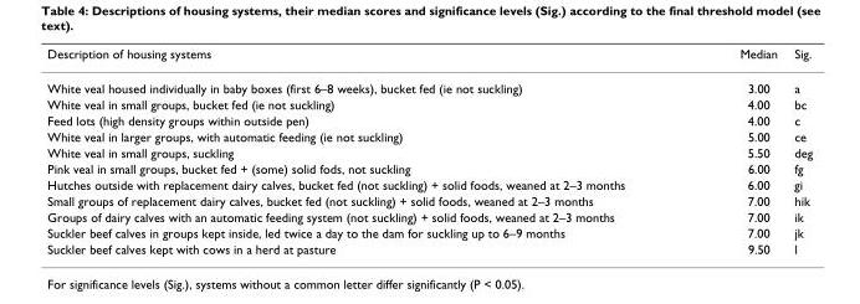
<table><thead><tr><td>Description of housing systems</td><td>Median</td><td>Sig.</td></tr></thead><tbody><tr><td>White veal housed individually in baby boxes (first 6–8 weeks), bucket fed (ie not suckling)</td><td>3.00</td><td>a</td></tr><tr><td>White veal in small groups, bucket fed (ie not suckling)</td><td>4.00</td><td>bc</td></tr><tr><td>Feed lots (high density groups within outside pen)</td><td>4.00</td><td>c</td></tr><tr><td>White veal in larger groups, with automatic feeding (ie not suckling)</td><td>5.00</td><td>ce</td></tr><tr><td>White veal in small groups, suckling</td><td>5.50</td><td>deg</td></tr><tr><td>Pink veal in small groups, bucket fed + (some) solid fods, not suckling</td><td>6.00</td><td>fg</td></tr><tr><td>Hutches outside with replacement dairy calves, bucket fed (not suckling) + solid foods, weaned at 2–3 months</td><td>6.00</td><td>gi</td></tr><tr><td>Small groups of replacement dairy calves, bucket fed (not suckling) + solid foods, weaned at 2–3 months</td><td>7.00</td><td>hik</td></tr><tr><td>Groups of dairy calves with an automatic feeding system (not suckling) + solid foods, weaned at 2–3 months</td><td>7.00</td><td>ik</td></tr><tr><td>Suckler beef calves in groups kept inside, led twice a day to the dam for suckling up to 6–9 months</td><td>7.00</td><td>jk</td></tr><tr><td>Suckler beef calves kept with cows in a herd at pasture</td><td>9.50</td><td>l</td></tr></tbody></table>